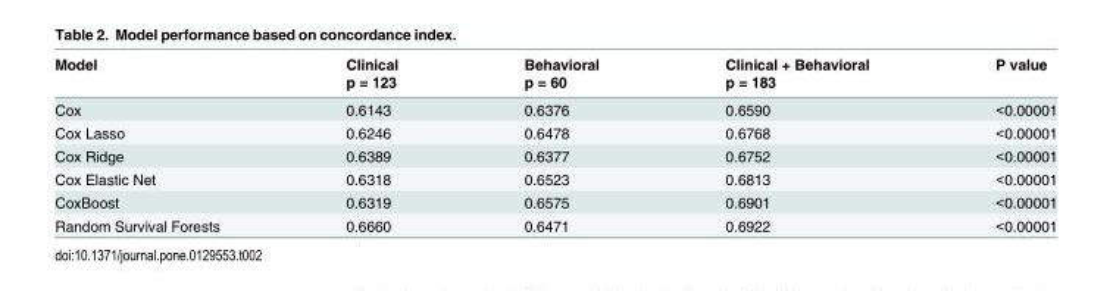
<table><thead><tr><td rowspan="2">Model</td><td rowspan="2">Clinical p = 123</td><td rowspan="2">Behavioral p = 60</td><td rowspan="2">Clinical + Behavioral p = 183</td><td rowspan="2">P value</td></tr><tr></tr></thead><tbody><tr><td>Cox</td><td>0.6143</td><td>0.6376</td><td>0.6590</td><td>&lt;0.00001</td></tr><tr><td>Cox Lasso</td><td>0.6246</td><td>0.6478</td><td>0.6768</td><td>&lt;0.00001</td></tr><tr><td>Cox Ridge</td><td>0.6389</td><td>0.6377</td><td>0.6752</td><td>&lt;0.00001</td></tr><tr><td>Cox Elastic Net</td><td>0.6318</td><td>0.6523</td><td>0.6813</td><td>&lt;0.00001</td></tr><tr><td>CoxBoost</td><td>0.6319</td><td>0.6575</td><td>0.6901</td><td>&lt;0.00001</td></tr><tr><td>Random Survival Forests</td><td>0.6660</td><td>0.6471</td><td>0.6922</td><td>&lt;0.00001</td></tr></tbody></table>